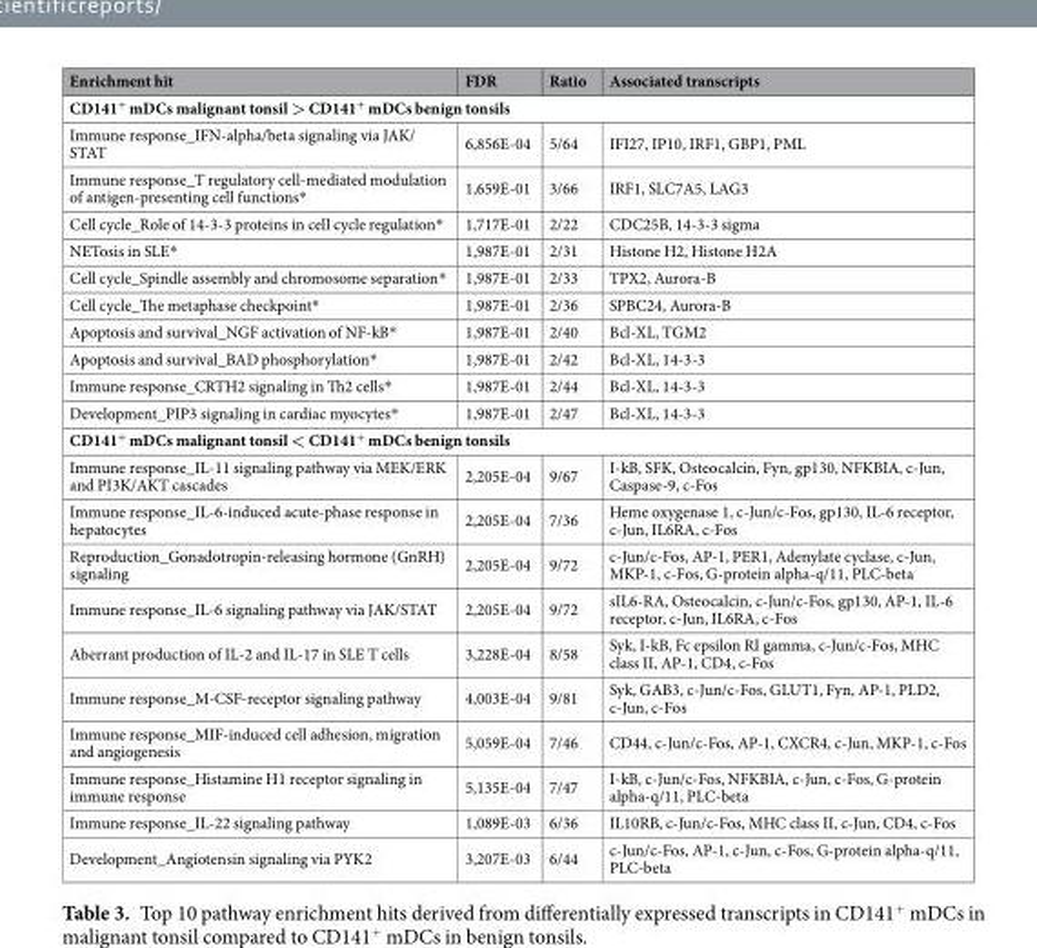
<table><thead><tr><td>Enrichment hit</td><td>FDR</td><td>Ratio</td><td>Associated transcripts</td></tr></thead><tbody><tr><td colspan="4">CD141<sup>+</sup> mDCs malignant tonsil &gt; CD141<sup>+</sup> mDCs benign tonsils</td></tr><tr><td>Immune response_IFN-alpha/beta signaling via JAK/ STAT</td><td>6,856E-04</td><td>5/64</td><td>IFI27, IP10, IRF1, GBP1, PML</td></tr><tr><td>Immune response_T regulatory cell-mediated modulation of antigen-presenting cell functions*</td><td>1,659E-01</td><td>3/66</td><td>IRF1, SLC7A5, LAG3</td></tr><tr><td>Cell cycle_Role of 14-3-3 proteins in cell cycle regulation*</td><td>1,717E-01</td><td>2/22</td><td>CDC25B, 14-3-3 sigma</td></tr><tr><td>NETosis in SLE*</td><td>1,987E-01</td><td>2/31</td><td>Histone H2, Histone H2A</td></tr><tr><td>Cell cycle_Spindle assembly and chromosome separation*</td><td>1,987E-01</td><td>2/33</td><td>TPX2, Aurora-B</td></tr><tr><td>Cell cycle_The metaphase checkpoint*</td><td>1,987E-01</td><td>2/36</td><td>SPBC24, Aurora-B</td></tr><tr><td>Apoptosis and survival_NGF activation of NF-kB*</td><td>1,987E-01</td><td>2/40</td><td>Bcl-XL, TGM2</td></tr><tr><td>Apoptosis and survival_BAD phosphorylation*</td><td>1,987E-01</td><td>2/42</td><td>Bcl-XL, 14-3-3</td></tr><tr><td>Immune response_CRTH2 signaling in Th2 cells*</td><td>1,987E-01</td><td>2/44</td><td>Bcl-XL, 14-3-3</td></tr><tr><td>Development_PIP3 signaling in cardiac myocytes*</td><td>1,987E-01</td><td>2/47</td><td>Bcl-XL, 14-3-3</td></tr><tr><td colspan="4">CD141<sup>+</sup> mDCs malignant tonsil &lt; CD141<sup>+</sup> mDCs benign tonsils</td></tr><tr><td>Immune response_IL-11 signaling pathway via MEK/ERK and PI3K/AKT cascades</td><td>2,205E-04</td><td>9/67</td><td>I-kB, SFK, Osteocalcin, Fyn, gp130, NFKBIA, c-Jun, Caspase-9, c-Fos</td></tr><tr><td>Immune response_IL-6-induced acute-phase response in hepatocytes</td><td>2,205E-04</td><td>7/36</td><td>Heme oxygenase 1, c-Jun/c-Fos, gp130, IL-6 receptor, c-Jun, IL6RA, c-Fos</td></tr><tr><td>Reproduction_Gonadotropin-releasing hormone (GnRH) signaling</td><td>2,205E-04</td><td>9/72</td><td>c-Jun/c-Fos, AP-1, PER1, Adenylate cyclase, c-Jun, MKP-1, c-Fos, G-protein alpha-q/11, PLC-beta</td></tr><tr><td>Immune response_IL-6 signaling pathway via JAK/STAT</td><td>2,205E-04</td><td>9/72</td><td>sIL6-RA, Osteocalcin, c-Jun/c-Fos, gp130, AP-1, IL-6 receptor, c-Jun, IL6RA, c-Fos</td></tr><tr><td>Aberrant production of IL-2 and IL-17 in SLE T cells</td><td>3,228E-04</td><td>8/58</td><td>Syk, I-kB, Fc epsilon RI gamma, c-Jun/c-Fos, MHC class II, AP-1, CD4, c-Fos</td></tr><tr><td>Immune response_M-CSF-receptor signaling pathway</td><td>4,003E-04</td><td>9/81</td><td>Syk, GAB3, c-Jun/c-Fos, GLUT1, Fyn, AP-1, PLD2, c-Jun, c-Fos</td></tr><tr><td>Immune response_MIF-induced cell adhesion, migration and angiogenesis</td><td>5,059E-04</td><td>7/46</td><td>CD44, c-Jun/c-Fos, AP-1, CXCR4, c-Jun, MKP-1, c-Fos</td></tr><tr><td>Immune response_Histamine H1 receptor signaling in immune response</td><td>5,135E-04</td><td>7/47</td><td>I-kB, c-Jun/c-Fos, NFKBIA, c-Jun, c-Fos, G-protein alpha-q/11, PLC-beta</td></tr><tr><td>Immune response_IL-22 signaling pathway</td><td>1,089E-03</td><td>6/36</td><td>IL10RB, c-Jun/c-Fos, MHC class II, c-Jun, CD4, c-Fos</td></tr><tr><td>Development_Angiotensin signaling via PYK2</td><td>3,207E-03</td><td>6/44</td><td>c-Jun/c-Fos, AP-1, c-Jun, c-Fos, G-protein alpha-q/11, PLC-beta</td></tr></tbody></table>